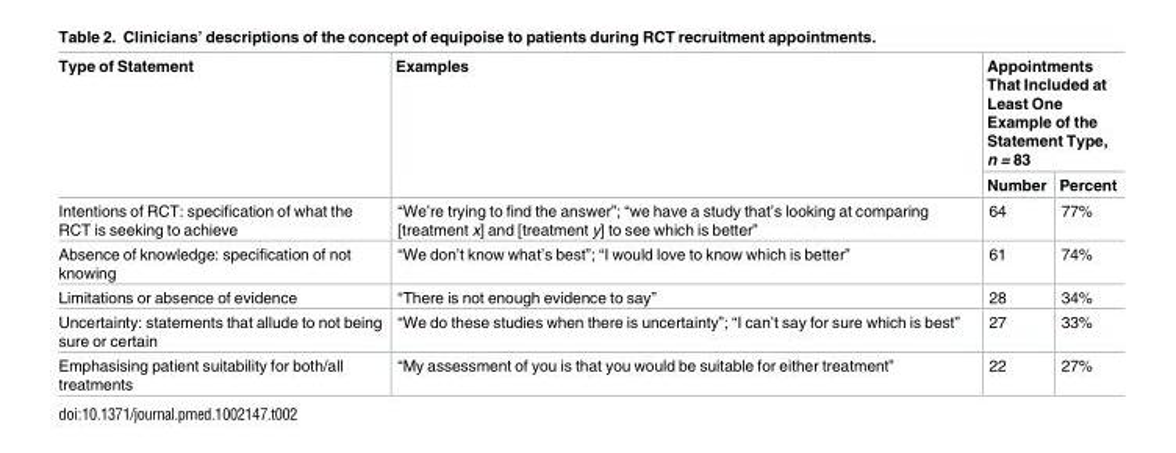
<table><thead><tr><td rowspan="2">Type of Statement</td><td rowspan="2">Examples</td><td colspan="2">Appointments That Included at Least One Example of the Statement Type, n = 83</td></tr><tr><td>Number</td><td>Percent</td></tr></thead><tbody><tr><td>Intentions of RCT: specification of what the RCT is seeking to achieve</td><td>“We’re trying to find the answer”; “we have a study that’s looking at comparing [treatment x] and [treatment y] to see which is better”</td><td>64</td><td>77%</td></tr><tr><td>Absence of knowledge: specification of not knowing</td><td>“We don’t know what’s best”; “I would love to know which is better”</td><td>61</td><td>74%</td></tr><tr><td>Limitations or absence of evidence</td><td>“There is not enough evidence to say”</td><td>28</td><td>34%</td></tr><tr><td>Uncertainty: statements that allude to not being sure or certain</td><td>“We do these studies when there is uncertainty”; “I can’t say for sure which is best”</td><td>27</td><td>33%</td></tr><tr><td>Emphasising patient suitability for both/all treatments</td><td>“My assessment of you is that you would be suitable for either treatment”</td><td>22</td><td>27%</td></tr></tbody></table>